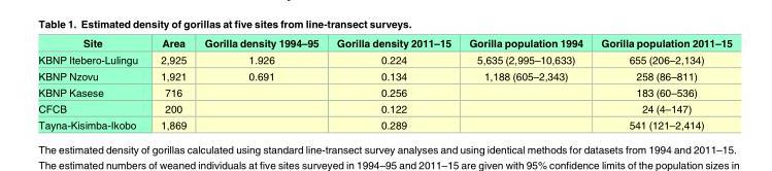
<table><thead><tr><td>Site</td><td>Area</td><td>Gorilla density 1994–95</td><td>Gorilla density 2011–15</td><td>Gorilla population 1994</td><td>Gorilla population 2011–15</td></tr></thead><tbody><tr><td>KBNP Itebero-Lulingu</td><td>2,925</td><td>1.926</td><td>0.224</td><td>5,635 (2,995–10,633)</td><td>655 (206–2,134)</td></tr><tr><td>KBNP Nzovu</td><td>1,921</td><td>0.691</td><td>0.134</td><td>1,188 (605–2,343)</td><td>258 (86–811)</td></tr><tr><td>KBNP Kasese</td><td>716</td><td></td><td>0.256</td><td></td><td>183 (60–536)</td></tr><tr><td>CFCB</td><td>200</td><td></td><td>0.122</td><td></td><td>24 (4–147)</td></tr><tr><td>Tayna-Kisimba-Ikobo</td><td>1,869</td><td></td><td>0.289</td><td></td><td>541 (121–2,414)</td></tr></tbody></table>